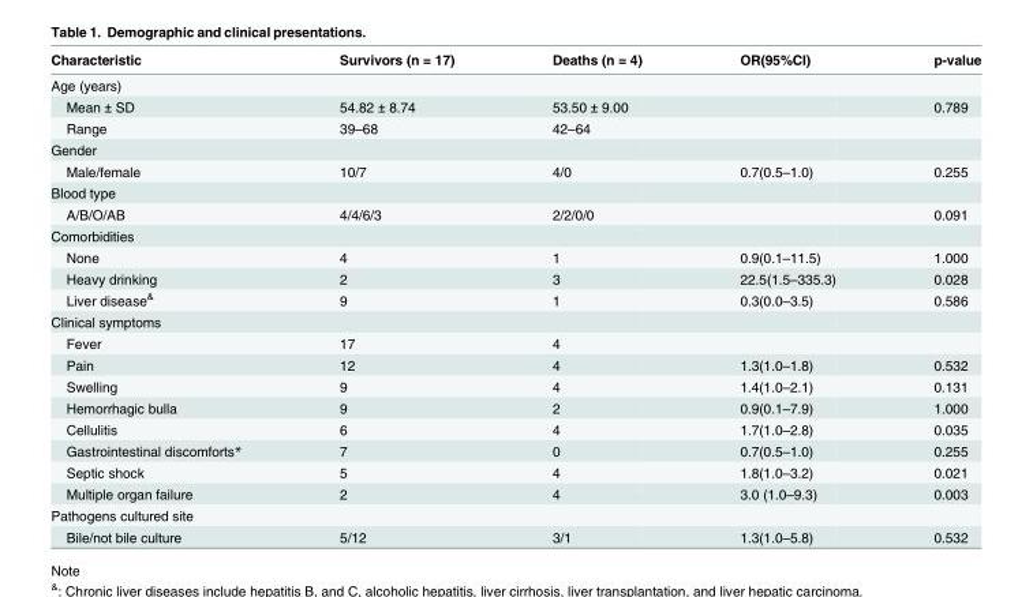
<table><thead><tr><td>Characteristic</td><td>Survivors (n = 17)</td><td>Deaths (n = 4)</td><td>OR(95%CI)</td><td>p-value</td></tr></thead><tbody><tr><td colspan="5">Age (years)</td></tr><tr><td>Mean ± SD</td><td>54.82 ± 8.74</td><td>53.50 ± 9.00</td><td></td><td>0.789</td></tr><tr><td>Range</td><td>39–68</td><td>42–64</td><td></td><td></td></tr><tr><td colspan="5">Gender</td></tr><tr><td>Male/female</td><td>10/7</td><td>4/0</td><td>0.7(0.5–1.0)</td><td>0.255</td></tr><tr><td colspan="5">Blood type</td></tr><tr><td>A/B/O/AB</td><td>4/4/6/3</td><td>2/2/0/0</td><td></td><td>0.091</td></tr><tr><td colspan="5">Comorbidities</td></tr><tr><td>None</td><td>4</td><td>1</td><td>0.9(0.1–11.5)</td><td>1.000</td></tr><tr><td>Heavy drinking</td><td>2</td><td>3</td><td>22.5(1.5–335.3)</td><td>0.028</td></tr><tr><td>Liver disease<sup>&amp;</sup></td><td>9</td><td>1</td><td>0.3(0.0–3.5)</td><td>0.586</td></tr><tr><td colspan="5">Clinical symptoms</td></tr><tr><td>Fever</td><td>17</td><td>4</td><td></td><td></td></tr><tr><td>Pain</td><td>12</td><td>4</td><td>1.3(1.0–1.8)</td><td>0.532</td></tr><tr><td>Swelling</td><td>9</td><td>4</td><td>1.4(1.0–2.1)</td><td>0.131</td></tr><tr><td>Hemorrhagic bulla</td><td>9</td><td>2</td><td>0.9(0.1–7.9)</td><td>1.000</td></tr><tr><td>Cellulitis</td><td>6</td><td>4</td><td>1.7(1.0–2.8)</td><td>0.035</td></tr><tr><td>Gastrointestinal discomforts*</td><td>7</td><td>0</td><td>0.7(0.5–1.0)</td><td>0.255</td></tr><tr><td>Septic shock</td><td>5</td><td>4</td><td>1.8(1.0–3.2)</td><td>0.021</td></tr><tr><td>Multiple organ failure</td><td>2</td><td>4</td><td>3.0 (1.0–9.3)</td><td>0.003</td></tr><tr><td colspan="5">Pathogens cultured site</td></tr><tr><td>Bile/not bile culture</td><td>5/12</td><td>3/1</td><td>1.3(1.0–5.8)</td><td>0.532</td></tr></tbody></table>